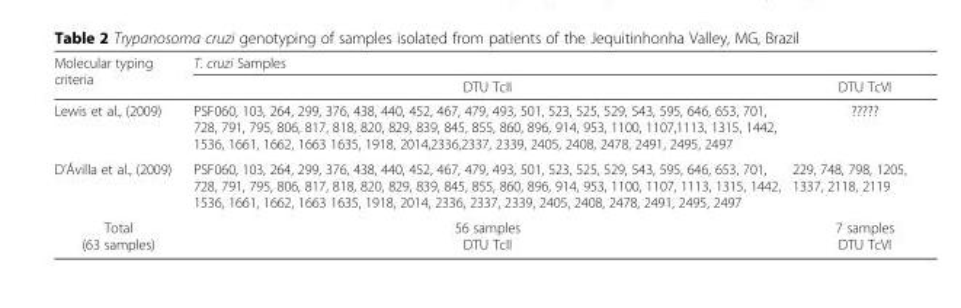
<table><thead><tr><td rowspan="2">Molecular typing criteria</td><td colspan="2">T. cruzi Samples</td></tr><tr><td>DTU TcII</td><td>DTU TcVI</td></tr></thead><tbody><tr><td>Lewis et al., (2009)</td><td>PSF060, 103, 264, 299, 376, 438, 440, 452, 467, 479, 493, 501, 523, 525, 529, 543, 595, 646, 653, 701, 728, 791, 795, 806, 817, 818, 820, 829, 839, 845, 855, 860, 896, 914, 953, 1100, 1107,1113, 1315, 1442, 1536, 1661, 1662, 1663 1635, 1918, 2014,2336,2337, 2339, 2405, 2408, 2478, 2491, 2495, 2497</td><td>?????</td></tr><tr><td>D’Ávilla et al., (2009)</td><td>PSF060, 103, 264, 299, 376, 438, 440, 452, 467, 479, 493, 501, 523, 525, 529, 543, 595, 646, 653, 701, 728, 791, 795, 806, 817, 818, 820, 829, 839, 845, 855, 860, 896, 914, 953, 1100, 1107, 1113, 1315, 1442, 1536, 1661, 1662, 1663 1635, 1918, 2014, 2336, 2337, 2339, 2405, 2408, 2478, 2491, 2495, 2497</td><td>229, 748, 798, 1205, 1337, 2118, 2119</td></tr><tr><td>Total (63 samples)</td><td>56 samples DTU TcII</td><td>7 samples DTU TcVI</td></tr></tbody></table>